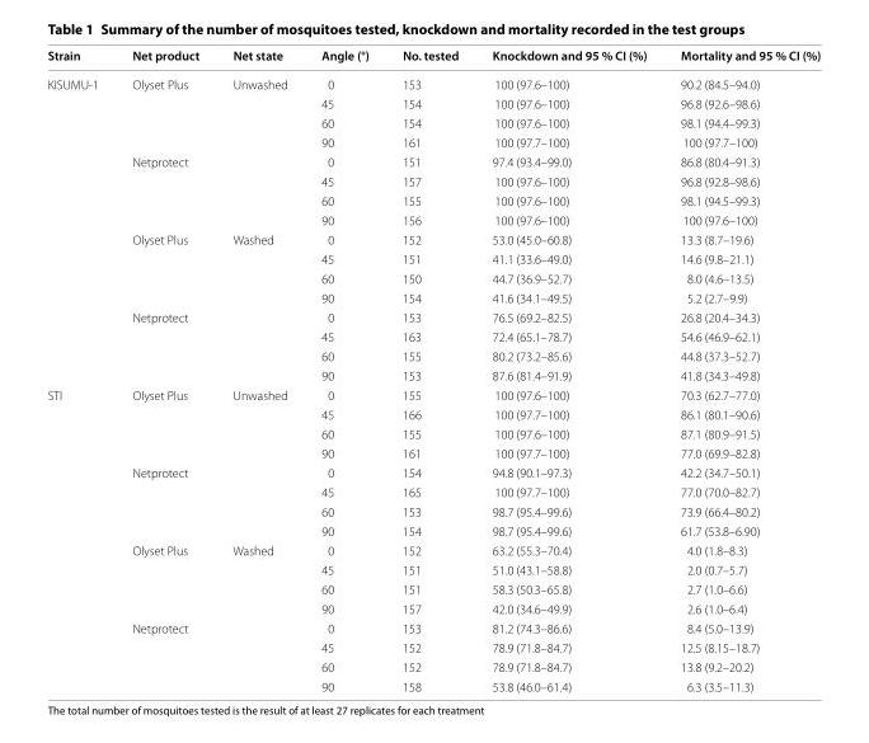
<table><thead><tr><td>Strain</td><td>Net product</td><td>Net state</td><td>Angle (°)</td><td>No. tested</td><td>Knockdown and 95 % CI (%)</td><td>Mortality and 95 % CI (%)</td></tr></thead><tbody><tr><td rowspan="16">KISUMU-1</td><td>Olyset Plus</td><td>Unwashed</td><td>0</td><td>153</td><td>100 (97.6–100)</td><td>90.2 (84.5–94.0)</td></tr><tr><td></td><td></td><td>45</td><td>154</td><td>100 (97.6–100)</td><td>96.8 (92.6–98.6)</td></tr><tr><td></td><td></td><td>60</td><td>154</td><td>100 (97.6–100)</td><td>98.1 (94.4–99.3)</td></tr><tr><td></td><td></td><td>90</td><td>161</td><td>100 (97.7–100)</td><td>100 (97.7–100)</td></tr><tr><td>Netprotect</td><td></td><td>0</td><td>151</td><td>97.4 (93.4–99.0)</td><td>86.8 (80.4–91.3)</td></tr><tr><td></td><td></td><td>45</td><td>157</td><td>100 (97.6–100)</td><td>96.8 (92.8–98.6)</td></tr><tr><td></td><td></td><td>60</td><td>155</td><td>100 (97.6–100)</td><td>98.1 (94.5–99.3)</td></tr><tr><td></td><td></td><td>90</td><td>156</td><td>100 (97.6–100)</td><td>100 (97.6–100)</td></tr><tr><td>Olyset Plus</td><td>Washed</td><td>0</td><td>152</td><td>53.0 (45.0–60.8)</td><td>13.3 (8.7–19.6)</td></tr><tr><td></td><td></td><td>45</td><td>151</td><td>41.1 (33.6–49.0)</td><td>14.6 (9.8–21.1)</td></tr><tr><td></td><td></td><td>60</td><td>150</td><td>44.7 (36.9–52.7)</td><td>8.0 (4.6–13.5)</td></tr><tr><td></td><td></td><td>90</td><td>154</td><td>41.6 (34.1–49.5)</td><td>5.2 (2.7–9.9)</td></tr><tr><td>Netprotect</td><td></td><td>0</td><td>153</td><td>76.5 (69.2–82.5)</td><td>26.8 (20.4–34.3)</td></tr><tr><td></td><td></td><td>45</td><td>163</td><td>72.4 (65.1–78.7)</td><td>54.6 (46.9–62.1)</td></tr><tr><td></td><td></td><td>60</td><td>155</td><td>80.2 (73.2–85.6)</td><td>44.8 (37.3–52.7)</td></tr><tr><td></td><td></td><td>90</td><td>153</td><td>87.6 (81.4–91.9)</td><td>41.8 (34.3–49.8)</td></tr><tr><td rowspan="16">STI</td><td>Olyset Plus</td><td>Unwashed</td><td>0</td><td>155</td><td>100 (97.6–100)</td><td>70.3 (62.7–77.0)</td></tr><tr><td></td><td></td><td>45</td><td>166</td><td>100 (97.7–100)</td><td>86.1 (80.1–90.6)</td></tr><tr><td></td><td></td><td>60</td><td>155</td><td>100 (97.6–100)</td><td>87.1 (80.9–91.5)</td></tr><tr><td></td><td></td><td>90</td><td>161</td><td>100 (97.7–100)</td><td>77.0 (69.9–82.8)</td></tr><tr><td>Netprotect</td><td></td><td>0</td><td>154</td><td>94.8 (90.1–97.3)</td><td>42.2 (34.7–50.1)</td></tr><tr><td></td><td></td><td>45</td><td>165</td><td>100 (97.7–100)</td><td>77.0 (70.0–82.7)</td></tr><tr><td></td><td></td><td>60</td><td>153</td><td>98.7 (95.4–99.6)</td><td>73.9 (66.4–80.2)</td></tr><tr><td></td><td></td><td>90</td><td>154</td><td>98.7 (95.4–99.6)</td><td>61.7 (53.8–6.90)</td></tr><tr><td>Olyset Plus</td><td>Washed</td><td>0</td><td>152</td><td>63.2 (55.3–70.4)</td><td>4.0 (1.8–8.3)</td></tr><tr><td></td><td></td><td>45</td><td>151</td><td>51.0 (43.1–58.8)</td><td>2.0 (0.7–5.7)</td></tr><tr><td></td><td></td><td>60</td><td>151</td><td>58.3 (50.3–65.8)</td><td>2.7 (1.0–6.6)</td></tr><tr><td></td><td></td><td>90</td><td>157</td><td>42.0 (34.6–49.9)</td><td>2.6 (1.0–6.4)</td></tr><tr><td>Netprotect</td><td></td><td>0</td><td>153</td><td>81.2 (74.3–86.6)</td><td>8.4 (5.0–13.9)</td></tr><tr><td></td><td></td><td>45</td><td>152</td><td>78.9 (71.8–84.7)</td><td>12.5 (8.15–18.7)</td></tr><tr><td></td><td></td><td>60</td><td>152</td><td>78.9 (71.8–84.7)</td><td>13.8 (9.2–20.2)</td></tr><tr><td></td><td></td><td>90</td><td>158</td><td>53.8 (46.0–61.4)</td><td>6.3 (3.5–11.3)</td></tr></tbody></table>